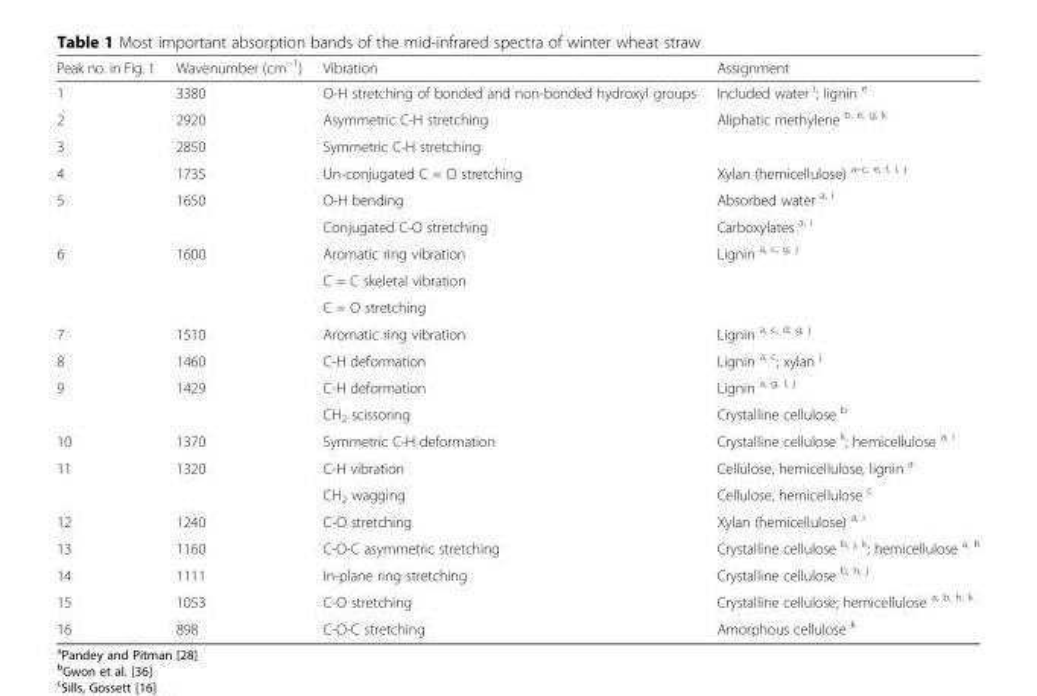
<table><thead><tr><td>Peak no. in Fig. 1</td><td>Wavenumber (cm<sup>−1</sup>)</td><td>Vibration</td><td>Assignment</td></tr></thead><tbody><tr><td>1</td><td>3380</td><td>O-H stretching of bonded and non-bonded hydroxyl groups</td><td>Included water <sup>i</sup>; lignin <sup>e</sup></td></tr><tr><td>2</td><td>2920</td><td>Asymmetric C-H stretching</td><td rowspan="2">Aliphatic methylene <sup>b, e, g, k</sup></td></tr><tr><td>3</td><td>2850</td><td>Symmetric C-H stretching</td></tr><tr><td>4</td><td>1735</td><td>Un-conjugated C = O stretching</td><td>Xylan (hemicellulose) <sup>a–c, e, f, i, j</sup></td></tr><tr><td rowspan="2">5</td><td rowspan="2">1650</td><td>O-H bending</td><td>Absorbed water <sup>a, i</sup></td></tr><tr><td>Conjugated C-O stretching</td><td>Carboxylates <sup>a, i</sup></td></tr><tr><td rowspan="3">6</td><td rowspan="3">1600</td><td>Aromatic ring vibration</td><td rowspan="3">Lignin <sup>a, c, g, j</sup></td></tr><tr><td>C = C skeletal vibration</td></tr><tr><td>C = O stretching</td></tr><tr><td>7</td><td>1510</td><td>Aromatic ring vibration</td><td>Lignin <sup>a, c, d, g, j</sup></td></tr><tr><td>8</td><td>1460</td><td>C-H deformation</td><td>Lignin <sup>a, c</sup>; xylan <sup>j</sup></td></tr><tr><td rowspan="2">9</td><td rowspan="2">1429</td><td>C-H deformation</td><td>Lignin <sup>a, g, I, j</sup></td></tr><tr><td>CH<sub>2</sub> scissoring</td><td>Crystalline cellulose <sup>b</sup></td></tr><tr><td>10</td><td>1370</td><td>Symmetric C-H deformation</td><td>Crystalline cellulose <sup>k</sup>; hemicellulose <sup>a, i</sup></td></tr><tr><td rowspan="2">11</td><td rowspan="2">1320</td><td>C-H vibration</td><td>Cellulose, hemicellulose, lignin <sup>a</sup></td></tr><tr><td>CH<sub>2</sub> wagging</td><td>Cellulose, hemicellulose <sup>c</sup></td></tr><tr><td>12</td><td>1240</td><td>C-O stretching</td><td>Xylan (hemicellulose) <sup>a, i</sup></td></tr><tr><td>13</td><td>1160</td><td>C-O-C asymmetric stretching</td><td>Crystalline cellulose <sup>b, j, k</sup>; hemicellulose <sup>a, h</sup></td></tr><tr><td>14</td><td>1111</td><td>In-plane ring stretching</td><td>Crystalline cellulose <sup>b, h, j</sup></td></tr><tr><td>15</td><td>1053</td><td>C-O stretching</td><td>Crystalline cellulose; hemicellulose <sup>a, b, h, k</sup></td></tr><tr><td>16</td><td>898</td><td>C-O-C stretching</td><td>Amorphous cellulose <sup>k</sup></td></tr></tbody></table>